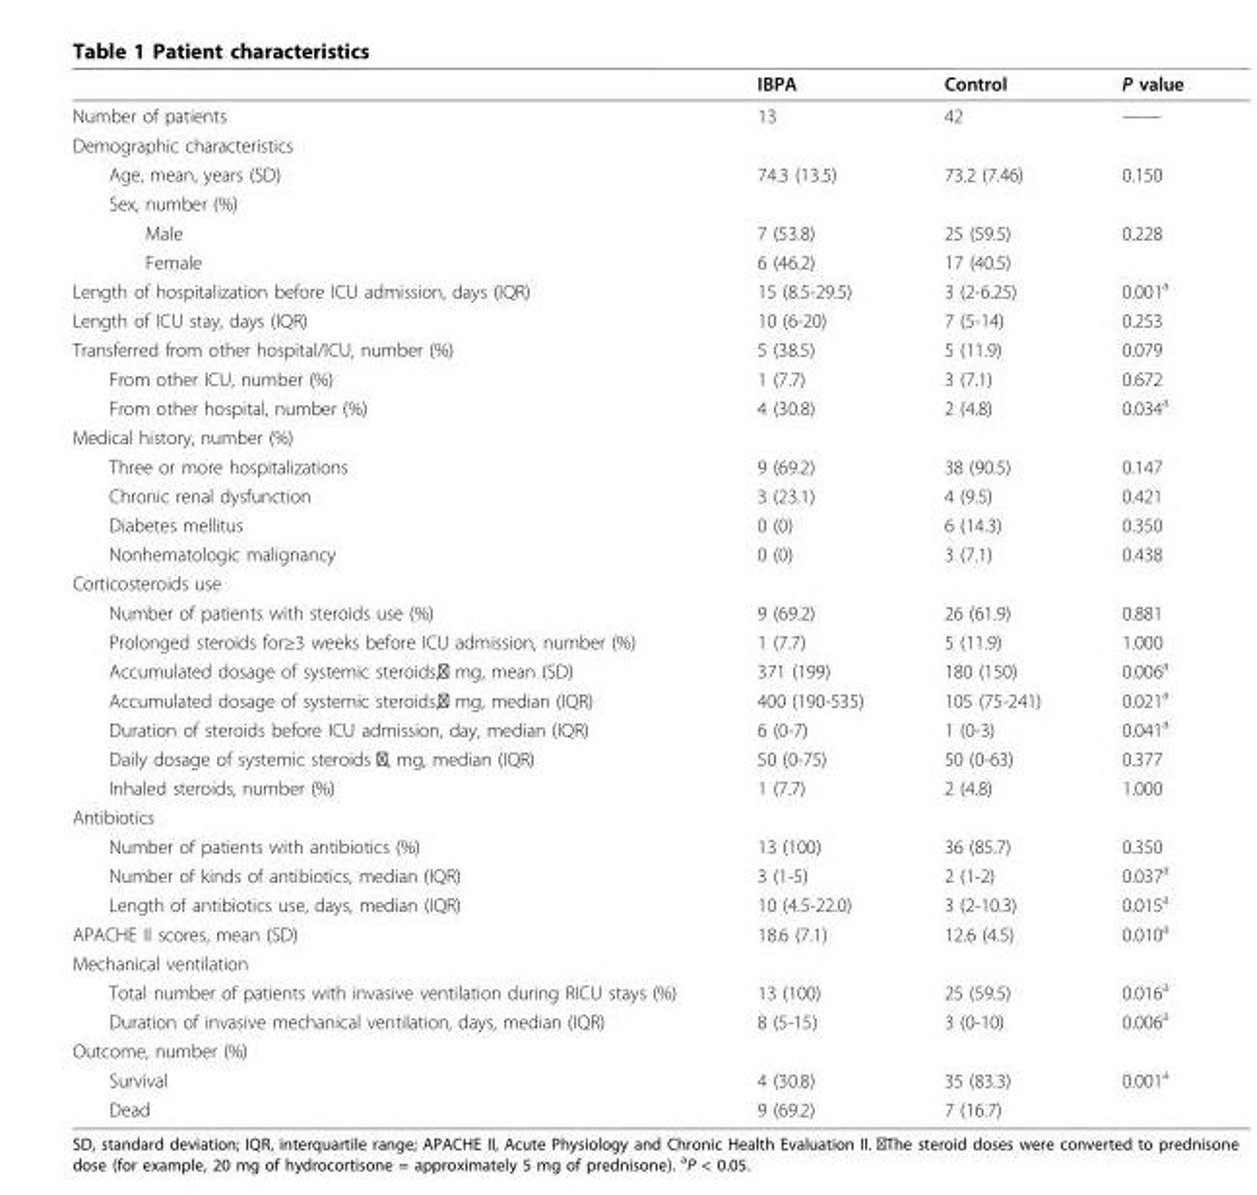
<table><thead><tr><td></td><td>IBPA</td><td>Control</td><td>P value</td></tr></thead><tbody><tr><td>Number of patients</td><td>13</td><td>42</td><td>——</td></tr><tr><td colspan="4">Demographic characteristics</td></tr><tr><td>Age, mean, years (SD)</td><td>74.3 (13.5)</td><td>73.2 (7.46)</td><td>0.150</td></tr><tr><td colspan="4">Sex, number (%)</td></tr><tr><td>Male</td><td>7 (53.8)</td><td>25 (59.5)</td><td>0.228</td></tr><tr><td>Female</td><td>6 (46.2)</td><td>17 (40.5)</td><td></td></tr><tr><td>Length of hospitalization before ICU admission, days (IQR)</td><td>15 (8.5-29.5)</td><td>3 (2-6.25)</td><td>0.001<sup>a</sup></td></tr><tr><td>Length of ICU stay, days (IQR)</td><td>10 (6-20)</td><td>7 (5-14)</td><td>0.253</td></tr><tr><td>Transferred from other hospital/ICU, number (%)</td><td>5 (38.5)</td><td>5 (11.9)</td><td>0.079</td></tr><tr><td>From other ICU, number (%)</td><td>1 (7.7)</td><td>3 (7.1)</td><td>0.672</td></tr><tr><td>From other hospital, number (%)</td><td>4 (30.8)</td><td>2 (4.8)</td><td>0.034<sup>a</sup></td></tr><tr><td colspan="4">Medical history, number (%)</td></tr><tr><td>Three or more hospitalizations</td><td>9 (69.2)</td><td>38 (90.5)</td><td>0.147</td></tr><tr><td>Chronic renal dysfunction</td><td>3 (23.1)</td><td>4 (9.5)</td><td>0.421</td></tr><tr><td>Diabetes mellitus</td><td>0 (0)</td><td>6 (14.3)</td><td>0.350</td></tr><tr><td>Nonhematologic malignancy</td><td>0 (0)</td><td>3 (7.1)</td><td>0.438</td></tr><tr><td colspan="4">Corticosteroids use</td></tr><tr><td>Number of patients with steroids use (%)</td><td>9 (69.2)</td><td>26 (61.9)</td><td>0.881</td></tr><tr><td>Prolonged steroids for≥3 weeks before ICU admission, number (%)</td><td>1 (7.7)</td><td>5 (11.9)</td><td>1.000</td></tr><tr><td>Accumulated dosage of systemic steroids,▵ mg, mean (SD)</td><td>371 (199)</td><td>180 (150)</td><td>0.006<sup>a</sup></td></tr><tr><td>Accumulated dosage of systemic steroids,▵ mg, median (IQR)</td><td>400 (190-535)</td><td>105 (75-241)</td><td>0.021<sup>a</sup></td></tr><tr><td>Duration of steroids before ICU admission, day, median (IQR)</td><td>6 (0-7)</td><td>1 (0-3)</td><td>0.041<sup>a</sup></td></tr><tr><td>Daily dosage of systemic steroids ▵, mg, median (IQR)</td><td>50 (0-75)</td><td>50 (0-63)</td><td>0.377</td></tr><tr><td>Inhaled steroids, number (%)</td><td>1 (7.7)</td><td>2 (4.8)</td><td>1.000</td></tr><tr><td colspan="4">Antibiotics</td></tr><tr><td>Number of patients with antibiotics (%)</td><td>13 (100)</td><td>36 (85.7)</td><td>0.350</td></tr><tr><td>Number of kinds of antibiotics, median (IQR)</td><td>3 (1-5)</td><td>2 (1-2)</td><td>0.037<sup>a</sup></td></tr><tr><td>Length of antibiotics use, days, median (IQR)</td><td>10 (4.5-22.0)</td><td>3 (2-10.3)</td><td>0.015<sup>a</sup></td></tr><tr><td>APACHE II scores, mean (SD)</td><td>18.6 (7.1)</td><td>12.6 (4.5)</td><td>0.010<sup>a</sup></td></tr><tr><td colspan="4">Mechanical ventilation</td></tr><tr><td>Total number of patients with invasive ventilation during RICU stays (%)</td><td>13 (100)</td><td>25 (59.5)</td><td>0.016<sup>a</sup></td></tr><tr><td>Duration of invasive mechanical ventilation, days, median (IQR)</td><td>8 (5-15)</td><td>3 (0-10)</td><td>0.006<sup>a</sup></td></tr><tr><td colspan="4">Outcome, number (%)</td></tr><tr><td>Survival</td><td>4 (30.8)</td><td>35 (83.3)</td><td>0.001<sup>a</sup></td></tr><tr><td>Dead</td><td>9 (69.2)</td><td>7 (16.7)</td><td></td></tr></tbody></table>